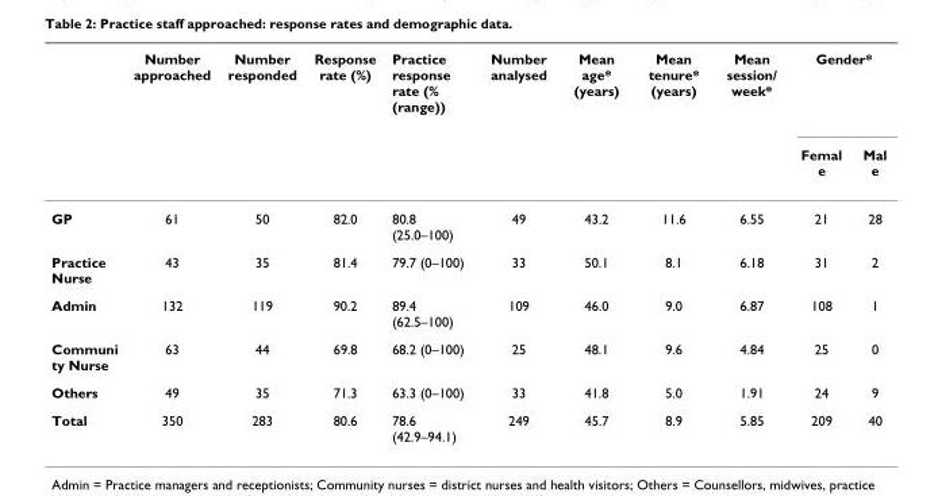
<table><thead><tr><td rowspan="2"></td><td rowspan="2">Number approached</td><td rowspan="2">Number responded</td><td rowspan="2">Response rate (%)</td><td rowspan="2">Practice response rate (% (range))</td><td rowspan="2">Number analysed</td><td rowspan="2">Mean age* (years)</td><td rowspan="2">Mean tenure* (years)</td><td rowspan="2">Mean session/ week*</td><td colspan="2">Gender*</td></tr><tr><td>Femal e</td><td>Mal e</td></tr></thead><tbody><tr><td>GP</td><td>61</td><td>50</td><td>82.0</td><td>80.8 (25.0–100)</td><td>49</td><td>43.2</td><td>11.6</td><td>6.55</td><td>21</td><td>28</td></tr><tr><td>Practice Nurse</td><td>43</td><td>35</td><td>81.4</td><td>79.7 (0–100)</td><td>33</td><td>50.1</td><td>8.1</td><td>6.18</td><td>31</td><td>2</td></tr><tr><td>Admin</td><td>132</td><td>119</td><td>90.2</td><td>89.4 (62.5–100)</td><td>109</td><td>46.0</td><td>9.0</td><td>6.87</td><td>108</td><td>1</td></tr><tr><td>Communi ty Nurse</td><td>63</td><td>44</td><td>69.8</td><td>68.2 (0–100)</td><td>25</td><td>48.1</td><td>9.6</td><td>4.84</td><td>25</td><td>0</td></tr><tr><td>Others</td><td>49</td><td>35</td><td>71.3</td><td>63.3 (0–100)</td><td>33</td><td>41.8</td><td>5.0</td><td>1.91</td><td>24</td><td>9</td></tr><tr><td>Total</td><td>350</td><td>283</td><td>80.6</td><td>78.6 (42.9–94.1)</td><td>249</td><td>45.7</td><td>8.9</td><td>5.85</td><td>209</td><td>40</td></tr></tbody></table>